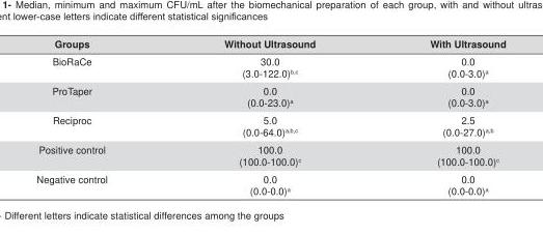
<table><thead><tr><td>Groups</td><td>Without Ultrasound</td><td>With Ultrasound</td></tr></thead><tbody><tr><td>BioRaCe</td><td>30.0 (3.0-122.0)b,c</td><td>0.0 (0.0-3.0)<sup>a</sup></td></tr><tr><td>ProTaper</td><td>0.0 (0.0-23.0)<sup>a</sup></td><td>0.0 (0.0-3.0)<sup>a</sup></td></tr><tr><td>Reciproc</td><td>5.0 (0.0-64.0)a,b,c</td><td>2.5 (0.0-27.0)a,b</td></tr><tr><td>Positive control</td><td>100.0 (100.0-100.0)<sup>c</sup></td><td>100.0 (100.0-100.0)<sup>c</sup></td></tr><tr><td>Negative control</td><td>0.0 (0.0-0.0)<sup>a</sup></td><td>0.0 (0.0-0.0)<sup>a</sup></td></tr></tbody></table>